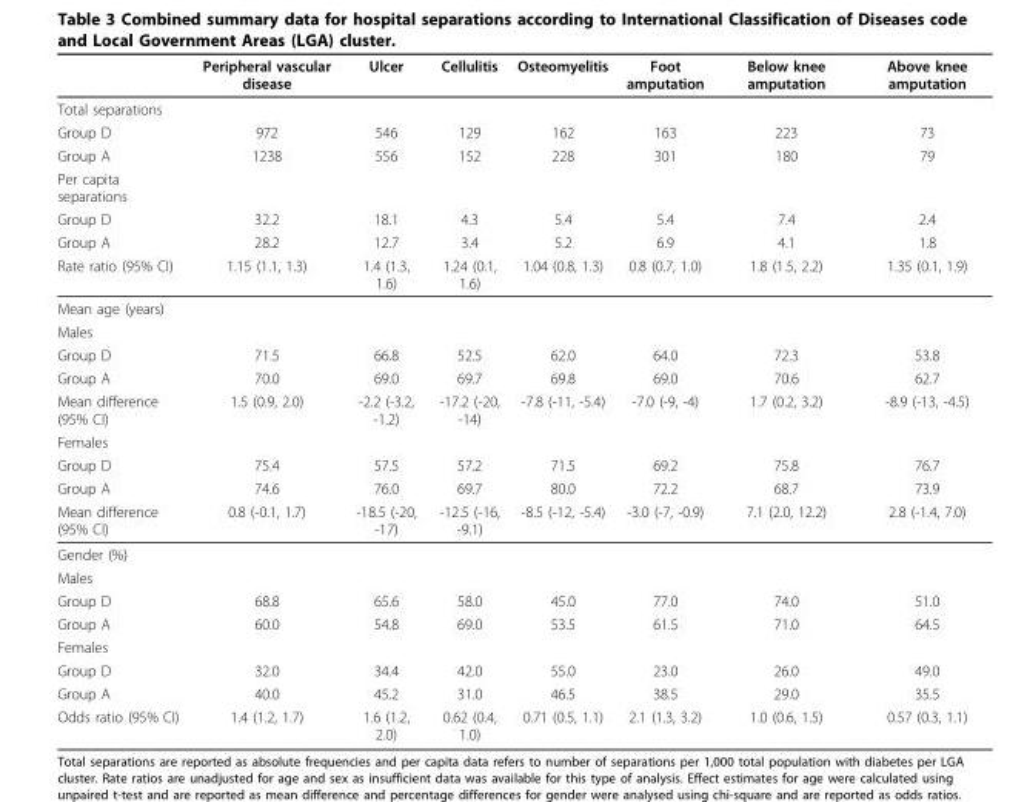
<table><thead><tr><td></td><td>Peripheral vascular disease</td><td>Ulcer</td><td>Cellulitis</td><td>Osteomyelitis</td><td>Foot amputation</td><td>Below knee amputation</td><td>Above knee amputation</td></tr></thead><tbody><tr><td colspan="8">Total separations</td></tr><tr><td>Group D</td><td>972</td><td>546</td><td>129</td><td>162</td><td>163</td><td>223</td><td>73</td></tr><tr><td>Group A</td><td>1238</td><td>556</td><td>152</td><td>228</td><td>301</td><td>180</td><td>79</td></tr><tr><td colspan="8">Per capita separations</td></tr><tr><td>Group D</td><td>32.2</td><td>18.1</td><td>4.3</td><td>5.4</td><td>5.4</td><td>7.4</td><td>2.4</td></tr><tr><td>Group A</td><td>28.2</td><td>12.7</td><td>3.4</td><td>5.2</td><td>6.9</td><td>4.1</td><td>1.8</td></tr><tr><td>Rate ratio (95% CI)</td><td>1.15 (1.1, 1.3)</td><td>1.4 (1.3, 1.6)</td><td>1.24 (0.1, 1.6)</td><td>1.04 (0.8, 1.3)</td><td>0.8 (0.7, 1.0)</td><td>1.8 (1.5, 2.2)</td><td>1.35 (0.1, 1.9)</td></tr><tr><td colspan="8">Mean age (years)</td></tr><tr><td colspan="8">Males</td></tr><tr><td>Group D</td><td>71.5</td><td>66.8</td><td>52.5</td><td>62.0</td><td>64.0</td><td>72.3</td><td>53.8</td></tr><tr><td>Group A</td><td>70.0</td><td>69.0</td><td>69.7</td><td>69.8</td><td>69.0</td><td>70.6</td><td>62.7</td></tr><tr><td>Mean difference (95% CI)</td><td>1.5 (0.9, 2.0)</td><td>-2.2 (-3.2, -1.2)</td><td>-17.2 (-20, -14)</td><td>-7.8 (-11, -5.4)</td><td>-7.0 (-9, -4)</td><td>1.7 (0.2, 3.2)</td><td>-8.9 (-13, -4.5)</td></tr><tr><td colspan="8">Females</td></tr><tr><td>Group D</td><td>75.4</td><td>57.5</td><td>57.2</td><td>71.5</td><td>69.2</td><td>75.8</td><td>76.7</td></tr><tr><td>Group A</td><td>74.6</td><td>76.0</td><td>69.7</td><td>80.0</td><td>72.2</td><td>68.7</td><td>73.9</td></tr><tr><td>Mean difference (95% CI)</td><td>0.8 (-0.1, 1.7)</td><td>-18.5 (-20, -17)</td><td>-12.5 (-16, -9.1)</td><td>-8.5 (-12, -5.4)</td><td>-3.0 (-7, -0.9)</td><td>7.1 (2.0, 12.2)</td><td>2.8 (-1.4, 7.0)</td></tr><tr><td colspan="8">Gender (%)</td></tr><tr><td colspan="8">Males</td></tr><tr><td>Group D</td><td>68.8</td><td>65.6</td><td>58.0</td><td>45.0</td><td>77.0</td><td>74.0</td><td>51.0</td></tr><tr><td>Group A</td><td>60.0</td><td>54.8</td><td>69.0</td><td>53.5</td><td>61.5</td><td>71.0</td><td>64.5</td></tr><tr><td colspan="8">Females</td></tr><tr><td>Group D</td><td>32.0</td><td>34.4</td><td>42.0</td><td>55.0</td><td>23.0</td><td>26.0</td><td>49.0</td></tr><tr><td>Group A</td><td>40.0</td><td>45.2</td><td>31.0</td><td>46.5</td><td>38.5</td><td>29.0</td><td>35.5</td></tr><tr><td>Odds ratio (95% CI)</td><td>1.4 (1.2, 1.7)</td><td>1.6 (1.2, 2.0)</td><td>0.62 (0.4, 1.0)</td><td>0.71 (0.5, 1.1)</td><td>2.1 (1.3, 3.2)</td><td>1.0 (0.6, 1.5)</td><td>0.57 (0.3, 1.1)</td></tr></tbody></table>